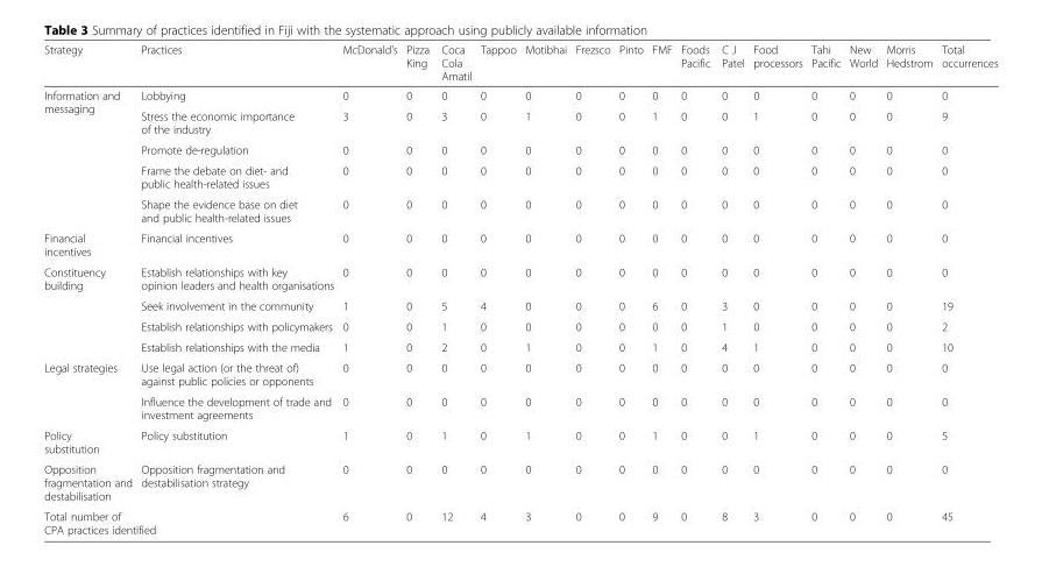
<table><thead><tr><td>Strategy</td><td>Practices</td><td>McDonald&#x27;s</td><td>Pizza King</td><td>Coca Cola Amatil</td><td>Tappoo</td><td>Motibhai</td><td>Frezsco</td><td>Pinto</td><td>FMF</td><td>Foods Pacific</td><td>C J Patel</td><td>Food processors</td><td>Tahi Pacific</td><td>New World</td><td>Morris Hedstrom</td><td>Total occurrences</td></tr></thead><tbody><tr><td rowspan="5">Information and messaging</td><td>Lobbying</td><td>0</td><td>0</td><td>0</td><td>0</td><td>0</td><td>0</td><td>0</td><td>0</td><td>0</td><td>0</td><td>0</td><td>0</td><td>0</td><td>0</td><td>0</td></tr><tr><td>Stress the economic importance of the industry</td><td>3</td><td>0</td><td>3</td><td>0</td><td>1</td><td>0</td><td>0</td><td>1</td><td>0</td><td>0</td><td>1</td><td>0</td><td>0</td><td>0</td><td>9</td></tr><tr><td>Promote de-regulation</td><td>0</td><td>0</td><td>0</td><td>0</td><td>0</td><td>0</td><td>0</td><td>0</td><td>0</td><td>0</td><td>0</td><td>0</td><td>0</td><td>0</td><td>0</td></tr><tr><td>Frame the debate on diet- and public health-related issues</td><td>0</td><td>0</td><td>0</td><td>0</td><td>0</td><td>0</td><td>0</td><td>0</td><td>0</td><td>0</td><td>0</td><td>0</td><td>0</td><td>0</td><td>0</td></tr><tr><td>Shape the evidence base on diet and public health-related issues</td><td>0</td><td>0</td><td>0</td><td>0</td><td>0</td><td>0</td><td>0</td><td>0</td><td>0</td><td>0</td><td>0</td><td>0</td><td>0</td><td>0</td><td>0</td></tr><tr><td>Financial incentives</td><td>Financial incentives</td><td>0</td><td>0</td><td>0</td><td>0</td><td>0</td><td>0</td><td>0</td><td>0</td><td>0</td><td>0</td><td>0</td><td>0</td><td>0</td><td>0</td><td>0</td></tr><tr><td rowspan="4">Constituency building</td><td>Establish relationships with key opinion leaders and health organisations</td><td>0</td><td>0</td><td>0</td><td>0</td><td>0</td><td>0</td><td>0</td><td>0</td><td>0</td><td>0</td><td>0</td><td>0</td><td>0</td><td>0</td><td>0</td></tr><tr><td>Seek involvement in the community</td><td>1</td><td>0</td><td>5</td><td>4</td><td>0</td><td>0</td><td>0</td><td>6</td><td>0</td><td>3</td><td>0</td><td>0</td><td>0</td><td>0</td><td>19</td></tr><tr><td>Establish relationships with policymakers</td><td>0</td><td>0</td><td>1</td><td>0</td><td>0</td><td>0</td><td>0</td><td>0</td><td>0</td><td>1</td><td>0</td><td>0</td><td>0</td><td>0</td><td>2</td></tr><tr><td>Establish relationships with the media</td><td>1</td><td>0</td><td>2</td><td>0</td><td>1</td><td>0</td><td>0</td><td>1</td><td>0</td><td>4</td><td>1</td><td>0</td><td>0</td><td>0</td><td>10</td></tr><tr><td rowspan="2">Legal strategies</td><td>Use legal action (or the threat of) against public policies or opponents</td><td>0</td><td>0</td><td>0</td><td>0</td><td>0</td><td>0</td><td>0</td><td>0</td><td>0</td><td>0</td><td>0</td><td>0</td><td>0</td><td>0</td><td>0</td></tr><tr><td>Influence the development of trade and investment agreements</td><td>0</td><td>0</td><td>0</td><td>0</td><td>0</td><td>0</td><td>0</td><td>0</td><td>0</td><td>0</td><td>0</td><td>0</td><td>0</td><td>0</td><td>0</td></tr><tr><td>Policy substitution</td><td>Policy substitution</td><td>1</td><td>0</td><td>1</td><td>0</td><td>1</td><td>0</td><td>0</td><td>1</td><td>0</td><td>0</td><td>1</td><td>0</td><td>0</td><td>0</td><td>5</td></tr><tr><td>Opposition fragmentation and destabilisation</td><td>Opposition fragmentation and destabilisation strategy</td><td>0</td><td>0</td><td>0</td><td>0</td><td>0</td><td>0</td><td>0</td><td>0</td><td>0</td><td>0</td><td>0</td><td>0</td><td>0</td><td>0</td><td>0</td></tr><tr><td colspan="2">Total number of CPA practices identified</td><td>6</td><td>0</td><td>12</td><td>4</td><td>3</td><td>0</td><td>0</td><td>9</td><td>0</td><td>8</td><td>3</td><td>0</td><td>0</td><td>0</td><td>45</td></tr></tbody></table>